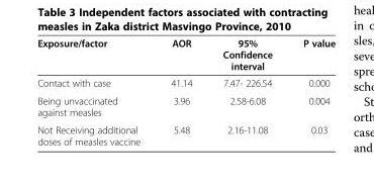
<table><thead><tr><td>Exposure/factor</td><td>AOR</td><td>95% Confidence interval</td><td>P value</td></tr></thead><tbody><tr><td>Contact with case</td><td>41.14</td><td>7.47- 226.54</td><td>0.000</td></tr><tr><td>Being unvaccinated against measles</td><td>3.96</td><td>2.58-6.08</td><td>0.004</td></tr><tr><td>Not Receiving additional doses of measles vaccine</td><td>5.48</td><td>2.16-11.08</td><td>0.03</td></tr></tbody></table>